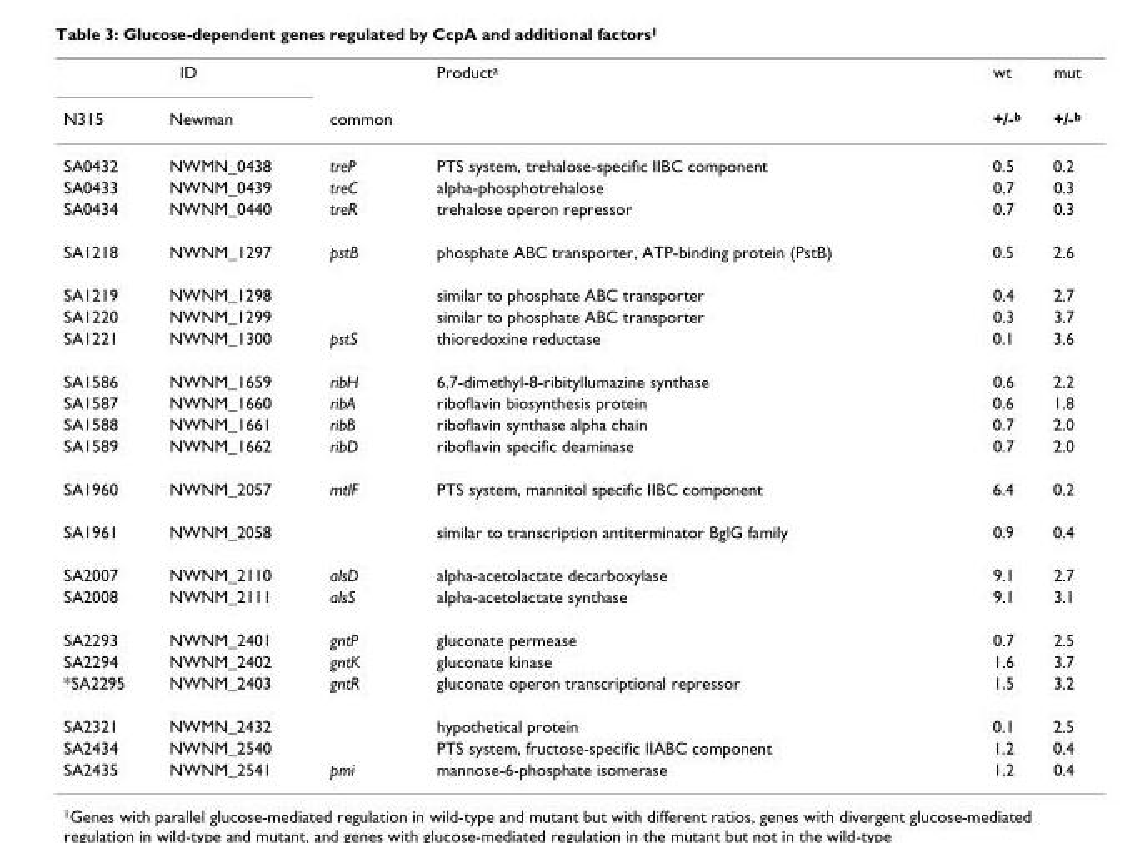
<table><thead><tr><td colspan="2">ID</td><td rowspan="2">common</td><td rowspan="2">Product<sup>a</sup></td><td rowspan="2">wt +/-<sup>b</sup></td><td rowspan="2">mut +/-<sup>b</sup></td></tr><tr><td>N315</td><td>Newman</td></tr></thead><tbody><tr><td>SA0432</td><td>NWMN_0438</td><td>treP</td><td>PTS system, trehalose-specific IIBC component</td><td>0.5</td><td>0.2</td></tr><tr><td>SA0433</td><td>NWNM_0439</td><td>treC</td><td>alpha-phosphotrehalose</td><td>0.7</td><td>0.3</td></tr><tr><td>SA0434</td><td>NWNM_0440</td><td>treR</td><td>trehalose operon repressor</td><td>0.7</td><td>0.3</td></tr><tr><td>SA1218</td><td>NWNM_1297</td><td>pstB</td><td>phosphate ABC transporter, ATP-binding protein (PstB)</td><td>0.5</td><td>2.6</td></tr><tr><td>SA1219</td><td>NWNM_1298</td><td></td><td>similar to phosphate ABC transporter</td><td>0.4</td><td>2.7</td></tr><tr><td>SA1220</td><td>NWNM_1299</td><td></td><td>similar to phosphate ABC transporter</td><td>0.3</td><td>3.7</td></tr><tr><td>SA1221</td><td>NWNM_1300</td><td>pstS</td><td>thioredoxine reductase</td><td>0.1</td><td>3.6</td></tr><tr><td>SA1586</td><td>NWNM_1659</td><td>ribH</td><td>6,7-dimethyl-8-ribityllumazine synthase</td><td>0.6</td><td>2.2</td></tr><tr><td>SA1587</td><td>NWNM_1660</td><td>ribA</td><td>riboflavin biosynthesis protein</td><td>0.6</td><td>1.8</td></tr><tr><td>SA1588</td><td>NWNM_1661</td><td>ribB</td><td>riboflavin synthase alpha chain</td><td>0.7</td><td>2.0</td></tr><tr><td>SA1589</td><td>NWNM_1662</td><td>ribD</td><td>riboflavin specific deaminase</td><td>0.7</td><td>2.0</td></tr><tr><td>SA1960</td><td>NWNM_2057</td><td>mtlF</td><td>PTS system, mannitol specific IIBC component</td><td>6.4</td><td>0.2</td></tr><tr><td>SA1961</td><td>NWNM_2058</td><td></td><td>similar to transcription antiterminator BglG family</td><td>0.9</td><td>0.4</td></tr><tr><td>SA2007</td><td>NWNM_2110</td><td>alsD</td><td>alpha-acetolactate decarboxylase</td><td>9.1</td><td>2.7</td></tr><tr><td>SA2008</td><td>NWNM_2111</td><td>alsS</td><td>alpha-acetolactate synthase</td><td>9.1</td><td>3.1</td></tr><tr><td>SA2293</td><td>NWNM_2401</td><td>gntP</td><td>gluconate permease</td><td>0.7</td><td>2.5</td></tr><tr><td>SA2294</td><td>NWNM_2402</td><td>gntK</td><td>gluconate kinase</td><td>1.6</td><td>3.7</td></tr><tr><td>*SA2295</td><td>NWNM_2403</td><td>gntR</td><td>gluconate operon transcriptional repressor</td><td>1.5</td><td>3.2</td></tr><tr><td>SA2321</td><td>NWMN_2432</td><td></td><td>hypothetical protein</td><td>0.1</td><td>2.5</td></tr><tr><td>SA2434</td><td>NWNM_2540</td><td></td><td>PTS system, fructose-specific IIABC component</td><td>1.2</td><td>0.4</td></tr><tr><td>SA2435</td><td>NWNM_2541</td><td>pmi</td><td>mannose-6-phosphate isomerase</td><td>1.2</td><td>0.4</td></tr></tbody></table>